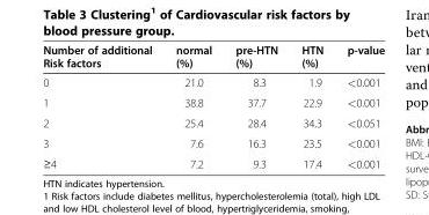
<table><thead><tr><td>Number of additional Risk factors</td><td>normal (%)</td><td>pre-HTN (%)</td><td>HTN (%)</td><td>p-value</td></tr></thead><tbody><tr><td>0</td><td>21.0</td><td>8.3</td><td>1.9</td><td>&lt;0.001</td></tr><tr><td>1</td><td>38.8</td><td>37.7</td><td>22.9</td><td>&lt;0.001</td></tr><tr><td>2</td><td>25.4</td><td>28.4</td><td>34.3</td><td>&lt;0.051</td></tr><tr><td>3</td><td>7.6</td><td>16.3</td><td>23.5</td><td>&lt;0.001</td></tr><tr><td>≥4</td><td>7.2</td><td>9.3</td><td>17.4</td><td>&lt;0.001</td></tr></tbody></table>